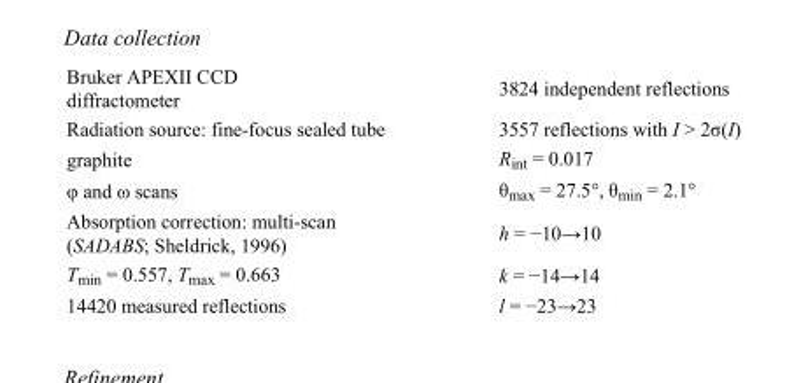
<table><tbody><tr><td>Bruker APEXII CCD diffractometer</td><td>3824 independent reflections</td></tr><tr><td>Radiation source: fine-focus sealed tube</td><td>3557 reflections with I &gt; 2σ(I)</td></tr><tr><td>graphite</td><td>R<sub>int</sub> = 0.017</td></tr><tr><td>φ and ω scans</td><td>θ<sub>max</sub> = 27.5°, θ<sub>min</sub> = 2.1°</td></tr><tr><td>Absorption correction: multi-scan (SADABS; Sheldrick, 1996)</td><td>h = −10→10</td></tr><tr><td>T<sub>min</sub> = 0.557, T<sub>max</sub> = 0.663</td><td>k = −14→14</td></tr><tr><td>14420 measured reflections</td><td>l = −23→23</td></tr></tbody></table>